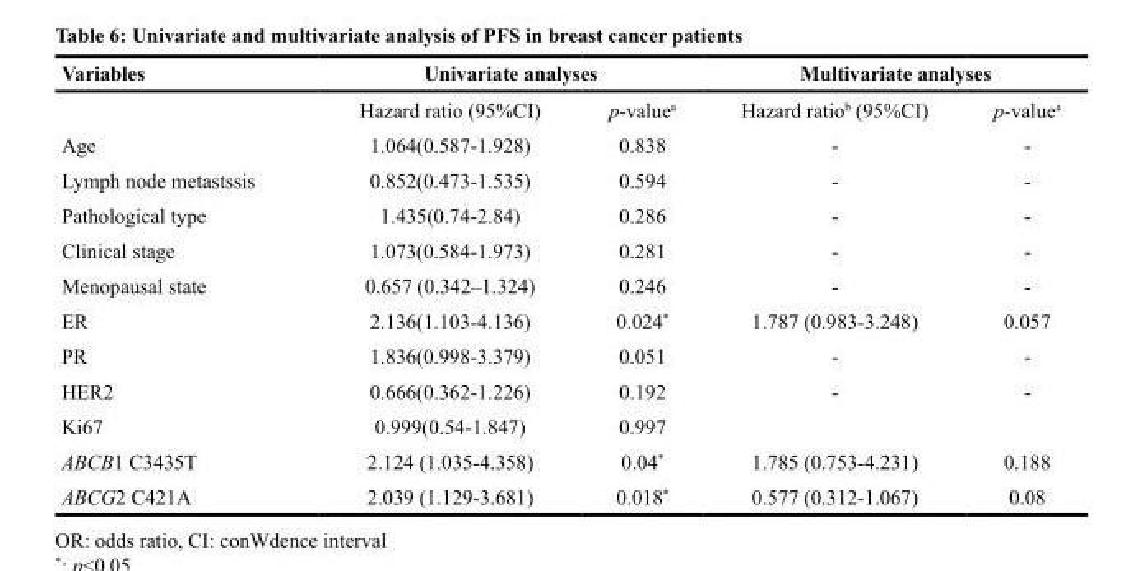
<table><thead><tr><td rowspan="2">Variables</td><td colspan="2">Univariate analyses</td><td colspan="2">Multivariate analyses</td></tr><tr><td>Hazard ratio (95%CI)</td><td>p-value<sup>a</sup></td><td>Hazard ratio<sup>b</sup> (95%CI)</td><td>p-value<sup>a</sup></td></tr></thead><tbody><tr><td>Age</td><td>1.064(0.587-1.928)</td><td>0.838</td><td>-</td><td>-</td></tr><tr><td>Lymph node metastssis</td><td>0.852(0.473-1.535)</td><td>0.594</td><td>-</td><td>-</td></tr><tr><td>Pathological type</td><td>1.435(0.74-2.84)</td><td>0.286</td><td>-</td><td>-</td></tr><tr><td>Clinical stage</td><td>1.073(0.584-1.973)</td><td>0.281</td><td>-</td><td>-</td></tr><tr><td>Menopausal state</td><td>0.657 (0.342–1.324)</td><td>0.246</td><td>-</td><td>-</td></tr><tr><td>ER</td><td>2.136(1.103-4.136)</td><td>0.024*</td><td>1.787 (0.983-3.248)</td><td>0.057</td></tr><tr><td>PR</td><td>1.836(0.998-3.379)</td><td>0.051</td><td>-</td><td>-</td></tr><tr><td>HER2</td><td>0.666(0.362-1.226)</td><td>0.192</td><td>-</td><td>-</td></tr><tr><td>Ki67</td><td>0.999(0.54-1.847)</td><td>0.997</td><td></td><td></td></tr><tr><td>ABCB1 C3435T</td><td>2.124 (1.035-4.358)</td><td>0.04*</td><td>1.785 (0.753-4.231)</td><td>0.188</td></tr><tr><td>ABCG2 C421A</td><td>2.039 (1.129-3.681)</td><td>0.018*</td><td>0.577 (0.312-1.067)</td><td>0.08</td></tr></tbody></table>